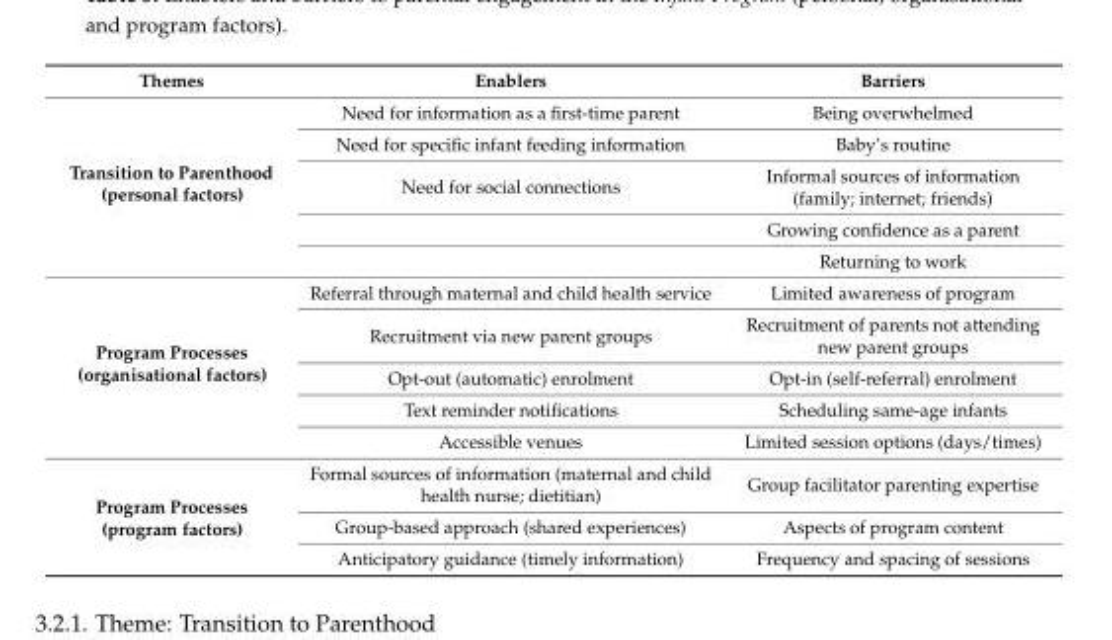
<table><thead><tr><td>Themes</td><td>Enablers</td><td>Barriers</td></tr></thead><tbody><tr><td rowspan="5">Transition to Parenthood (personal factors)</td><td>Need for information as a first-time parent</td><td>Being overwhelmed</td></tr><tr><td>Need for specific infant feeding information</td><td>Baby’s routine</td></tr><tr><td>Need for social connections</td><td>Informal sources of information (family; internet; friends)</td></tr><tr><td></td><td>Growing confidence as a parent</td></tr><tr><td></td><td>Returning to work</td></tr><tr><td rowspan="5">Program Processes (organisational factors)</td><td>Referral through maternal and child health service</td><td>Limited awareness of program</td></tr><tr><td>Recruitment via new parent groups</td><td>Recruitment of parents not attending new parent groups</td></tr><tr><td>Opt-out (automatic) enrolment</td><td>Opt-in (self-referral) enrolment</td></tr><tr><td>Text reminder notifications</td><td>Scheduling same-age infants</td></tr><tr><td>Accessible venues</td><td>Limited session options (days/times)</td></tr><tr><td rowspan="3">Program Processes (program factors)</td><td>Formal sources of information (maternal and child health nurse; dietitian)</td><td>Group facilitator parenting expertise</td></tr><tr><td>Group-based approach (shared experiences)</td><td>Aspects of program content</td></tr><tr><td>Anticipatory guidance (timely information)</td><td>Frequency and spacing of sessions</td></tr></tbody></table>